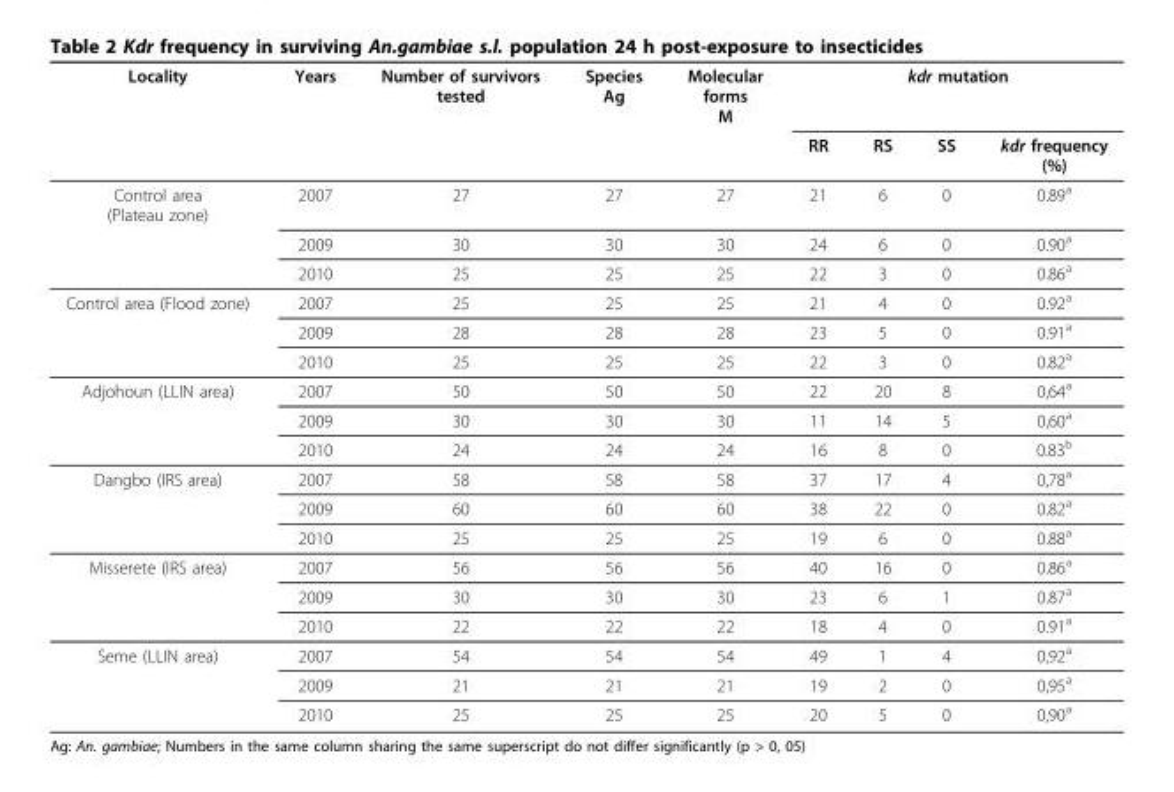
<table><thead><tr><td rowspan="2">Locality</td><td rowspan="2">Years</td><td rowspan="2">Number of survivors tested</td><td rowspan="2">Species Ag</td><td rowspan="2">Molecular forms M</td><td colspan="4">kdr mutation</td></tr><tr><td>RR</td><td>RS</td><td>SS</td><td>kdr frequency (%)</td></tr></thead><tbody><tr><td rowspan="3">Control area (Plateau zone)</td><td>2007</td><td>27</td><td>27</td><td>27</td><td>21</td><td>6</td><td>0</td><td>0.89<sup>a</sup></td></tr><tr><td>2009</td><td>30</td><td>30</td><td>30</td><td>24</td><td>6</td><td>0</td><td>0.90<sup>a</sup></td></tr><tr><td>2010</td><td>25</td><td>25</td><td>25</td><td>22</td><td>3</td><td>0</td><td>0.86<sup>a</sup></td></tr><tr><td rowspan="3">Control area (Flood zone)</td><td>2007</td><td>25</td><td>25</td><td>25</td><td>21</td><td>4</td><td>0</td><td>0.92<sup>a</sup></td></tr><tr><td>2009</td><td>28</td><td>28</td><td>28</td><td>23</td><td>5</td><td>0</td><td>0.91<sup>a</sup></td></tr><tr><td>2010</td><td>25</td><td>25</td><td>25</td><td>22</td><td>3</td><td>0</td><td>0.82<sup>a</sup></td></tr><tr><td rowspan="3">Adjohoun (LLIN area)</td><td>2007</td><td>50</td><td>50</td><td>50</td><td>22</td><td>20</td><td>8</td><td>0,64<sup>a</sup></td></tr><tr><td>2009</td><td>30</td><td>30</td><td>30</td><td>11</td><td>14</td><td>5</td><td>0,60<sup>a</sup></td></tr><tr><td>2010</td><td>24</td><td>24</td><td>24</td><td>16</td><td>8</td><td>0</td><td>0.83<sup>b</sup></td></tr><tr><td rowspan="3">Dangbo (IRS area)</td><td>2007</td><td>58</td><td>58</td><td>58</td><td>37</td><td>17</td><td>4</td><td>0,78<sup>a</sup></td></tr><tr><td>2009</td><td>60</td><td>60</td><td>60</td><td>38</td><td>22</td><td>0</td><td>0.82<sup>a</sup></td></tr><tr><td>2010</td><td>25</td><td>25</td><td>25</td><td>19</td><td>6</td><td>0</td><td>0.88<sup>a</sup></td></tr><tr><td rowspan="3">Misserete (IRS area)</td><td>2007</td><td>56</td><td>56</td><td>56</td><td>40</td><td>16</td><td>0</td><td>0.86<sup>a</sup></td></tr><tr><td>2009</td><td>30</td><td>30</td><td>30</td><td>23</td><td>6</td><td>1</td><td>0.87<sup>a</sup></td></tr><tr><td>2010</td><td>22</td><td>22</td><td>22</td><td>18</td><td>4</td><td>0</td><td>0.91<sup>a</sup></td></tr><tr><td rowspan="3">Seme (LLIN area)</td><td>2007</td><td>54</td><td>54</td><td>54</td><td>49</td><td>1</td><td>4</td><td>0,92<sup>a</sup></td></tr><tr><td>2009</td><td>21</td><td>21</td><td>21</td><td>19</td><td>2</td><td>0</td><td>0,95<sup>a</sup></td></tr><tr><td>2010</td><td>25</td><td>25</td><td>25</td><td>20</td><td>5</td><td>0</td><td>0,90<sup>a</sup></td></tr></tbody></table>